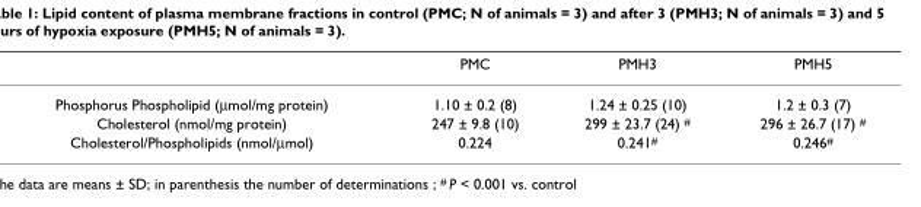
<table><thead><tr><td></td><td>PMC</td><td>PMH3</td><td>PMH5</td></tr></thead><tbody><tr><td>Phosphorus Phospholipid (µmol/mg protein)</td><td>1.10 ± 0.2 (8)</td><td>1.24 ± 0.25 (10)</td><td>1.2 ± 0.3 (7)</td></tr><tr><td>Cholesterol (nmol/mg protein)</td><td>247 ± 9.8 (10)</td><td>299 ± 23.7 (24) <sup>#</sup></td><td>296 ± 26.7 (17) <sup>#</sup></td></tr><tr><td>Cholesterol/Phospholipids (nmol/µmol)</td><td>0.224</td><td>0.241<sup>#</sup></td><td>0.246<sup>#</sup></td></tr></tbody></table>